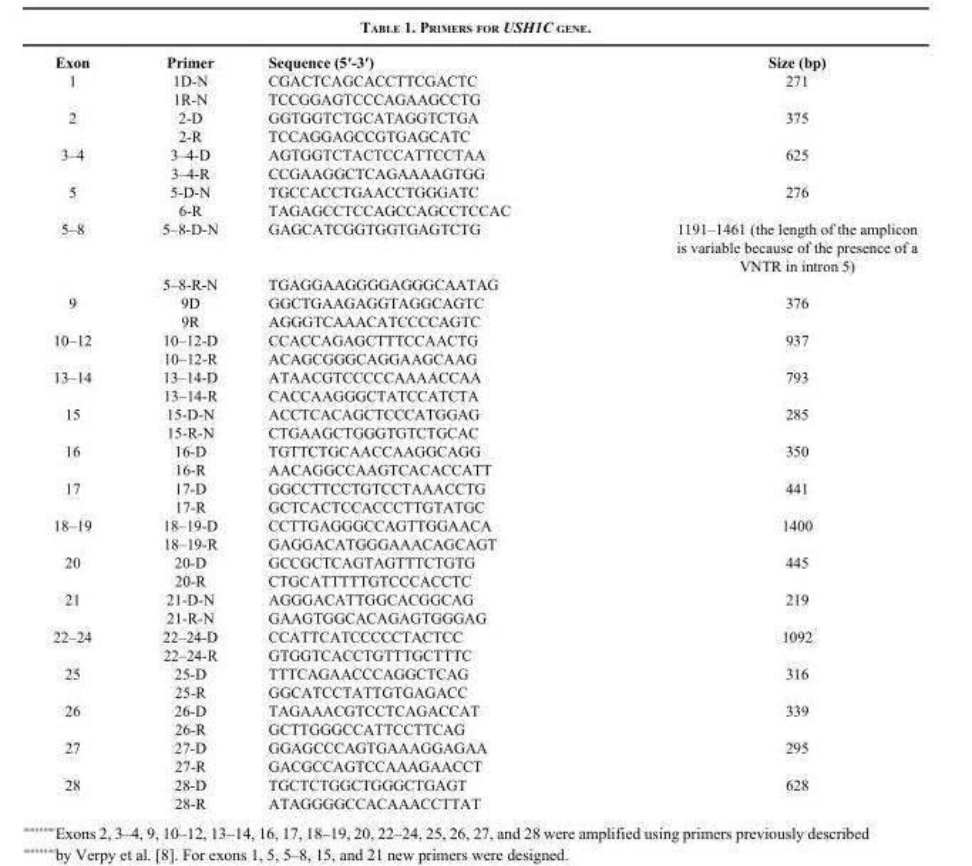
<table><thead><tr><td>Exon</td><td>Primer</td><td>Sequence (5′-3′)</td><td>Size (bp)</td></tr></thead><tbody><tr><td rowspan="2">1</td><td>1D-N</td><td>CGACTCAGCACCTTCGACTC</td><td>271</td></tr><tr><td>1R-N</td><td>TCCGGAGTCCCAGAAGCCTG</td><td></td></tr><tr><td rowspan="2">2</td><td>2-D</td><td>GGTGGTCTGCATAGGTCTGA</td><td>375</td></tr><tr><td>2-R</td><td>TCCAGGAGCCGTGAGCATC</td><td></td></tr><tr><td rowspan="2">3–4</td><td>3–4-D</td><td>AGTGGTCTACTCCATTCCTAA</td><td>625</td></tr><tr><td>3–4-R</td><td>CCGAAGGCTCAGAAAAGTGG</td><td></td></tr><tr><td rowspan="2">5</td><td>5-D-N</td><td>TGCCACCTGAACCTGGGATC</td><td>276</td></tr><tr><td>6-R</td><td>TAGAGCCTCCAGCCAGCCTCCAC</td><td></td></tr><tr><td rowspan="2">5–8</td><td>5–8-D-N</td><td>GAGCATCGGTGGTGAGTCTG</td><td>1191–1461 (the length of the amplicon is variable because of the presence of a VNTR in intron 5)</td></tr><tr><td>5–8-R-N</td><td>TGAGGAAGGGGAGGGCAATAG</td><td></td></tr><tr><td rowspan="2">9</td><td>9D</td><td>GGCTGAAGAGGTAGGCAGTC</td><td>376</td></tr><tr><td>9R</td><td>AGGGTCAAACATCCCCAGTC</td><td></td></tr><tr><td rowspan="2">10–12</td><td>10–12-D</td><td>CCACCAGAGCTTTCCAACTG</td><td>937</td></tr><tr><td>10–12-R</td><td>ACAGCGGGCAGGAAGCAAG</td><td></td></tr><tr><td rowspan="2">13–14</td><td>13–14-D</td><td>ATAACGTCCCCCAAAACCAA</td><td>793</td></tr><tr><td>13–14-R</td><td>CACCAAGGGCTATCCATCTA</td><td></td></tr><tr><td rowspan="2">15</td><td>15-D-N</td><td>ACCTCACAGCTCCCATGGAG</td><td>285</td></tr><tr><td>15-R-N</td><td>CTGAAGCTGGGTGTCTGCAC</td><td></td></tr><tr><td rowspan="2">16</td><td>16-D</td><td>TGTTCTGCAACCAAGGCAGG</td><td>350</td></tr><tr><td>16-R</td><td>AACAGGCCAAGTCACACCATT</td><td></td></tr><tr><td rowspan="2">17</td><td>17-D</td><td>GGCCTTCCTGTCCTAAACCTG</td><td>441</td></tr><tr><td>17-R</td><td>GCTCACTCCACCCTTGTATGC</td><td></td></tr><tr><td rowspan="2">18–19</td><td>18–19-D</td><td>CCTTGAGGGCCAGTTGGAACA</td><td>1400</td></tr><tr><td>18–19-R</td><td>GAGGACATGGGAAACAGCAGT</td><td></td></tr><tr><td rowspan="2">20</td><td>20-D</td><td>GCCGCTCAGTAGTTTCTGTG</td><td>445</td></tr><tr><td>20-R</td><td>CTGCATTTTTGTCCCACCTC</td><td></td></tr><tr><td rowspan="2">21</td><td>21-D-N</td><td>AGGGACATTGGCACGGCAG</td><td>219</td></tr><tr><td>21-R-N</td><td>GAAGTGGCACAGAGTGGGAG</td><td></td></tr><tr><td rowspan="2">22–24</td><td>22–24-D</td><td>CCATTCATCCCCCTACTCC</td><td>1092</td></tr><tr><td>22–24-R</td><td>GTGGTCACCTGTTTGCTTTC</td><td></td></tr><tr><td rowspan="2">25</td><td>25-D</td><td>TTTCAGAACCCAGGCTCAG</td><td>316</td></tr><tr><td>25-R</td><td>GGCATCCTATTGTGAGACC</td><td></td></tr><tr><td rowspan="2">26</td><td>26-D</td><td>TAGAAACGTCCTCAGACCAT</td><td>339</td></tr><tr><td>26-R</td><td>GCTTGGGCCATTCCTTCAG</td><td></td></tr><tr><td rowspan="2">27</td><td>27-D</td><td>GGAGCCCAGTGAAAGGAGAA</td><td>295</td></tr><tr><td>27-R</td><td>GACGCCAGTCCAAAGAACCT</td><td></td></tr><tr><td rowspan="2">28</td><td>28-D</td><td>TGCTCTGGCTGGGCTGAGT</td><td>628</td></tr><tr><td>28-R</td><td>ATAGGGGCCACAAACCTTAT</td><td></td></tr></tbody></table>